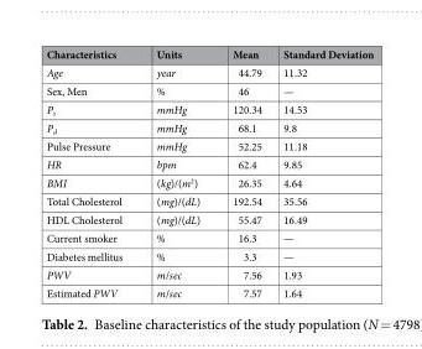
<table><thead><tr><td>Characteristics</td><td>Units</td><td>Mean</td><td>Standard Deviation</td></tr></thead><tbody><tr><td>Age</td><td>year</td><td>44.79</td><td>11.32</td></tr><tr><td>Sex, Men</td><td>%</td><td>46</td><td>—</td></tr><tr><td>P<sub>s</sub></td><td>mmHg</td><td>120.34</td><td>14.53</td></tr><tr><td>P<sub>d</sub></td><td>mmHg</td><td>68.1</td><td>9.8</td></tr><tr><td>Pulse Pressure</td><td>mmHg</td><td>52.25</td><td>11.18</td></tr><tr><td>HR</td><td>bpm</td><td>62.4</td><td>9.85</td></tr><tr><td>BMI</td><td>(kg)/(m<sup>2</sup>)</td><td>26.35</td><td>4.64</td></tr><tr><td>Total Cholesterol</td><td>(mg)/(dL)</td><td>192.54</td><td>35.56</td></tr><tr><td>HDL Cholesterol</td><td>(mg)/(dL)</td><td>55.47</td><td>16.49</td></tr><tr><td>Current smoker</td><td>%</td><td>16.3</td><td>—</td></tr><tr><td>Diabetes mellitus</td><td>%</td><td>3.3</td><td>—</td></tr><tr><td>PWV</td><td>m/sec</td><td>7.56</td><td>1.93</td></tr><tr><td>Estimated PWV</td><td>m/sec</td><td>7.57</td><td>1.64</td></tr></tbody></table>